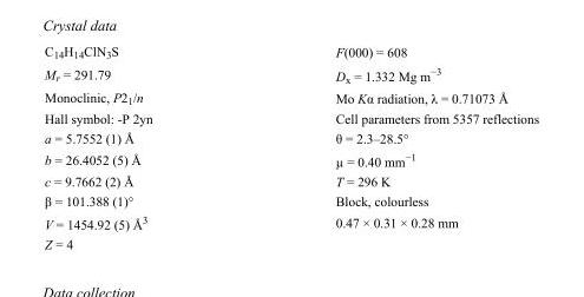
<table><tbody><tr><td>C<sub>14</sub>H<sub>14</sub>ClN<sub>3</sub>S</td><td>F(000) = 608</td></tr><tr><td>M<sub>r</sub> = 291.79</td><td>D<sub>x</sub> = 1.332 Mg m<sup>−3</sup></td></tr><tr><td>Monoclinic, P2<sub>1</sub>/n</td><td>Mo Kα radiation, λ = 0.71073 Å</td></tr><tr><td>Hall symbol: -P 2yn</td><td>Cell parameters from 5357 reflections</td></tr><tr><td>a = 5.7552 (1) Å</td><td>θ = 2.3–28.5°</td></tr><tr><td>b = 26.4052 (5) Å</td><td>µ = 0.40 mm<sup>−1</sup></td></tr><tr><td>c = 9.7662 (2) Å</td><td>T = 296 K</td></tr><tr><td>β = 101.388 (1)°</td><td>Block, colourless</td></tr><tr><td>V = 1454.92 (5) Å<sup>3</sup></td><td>0.47 × 0.31 × 0.28 mm</td></tr><tr><td>Z = 4</td><td></td></tr></tbody></table>